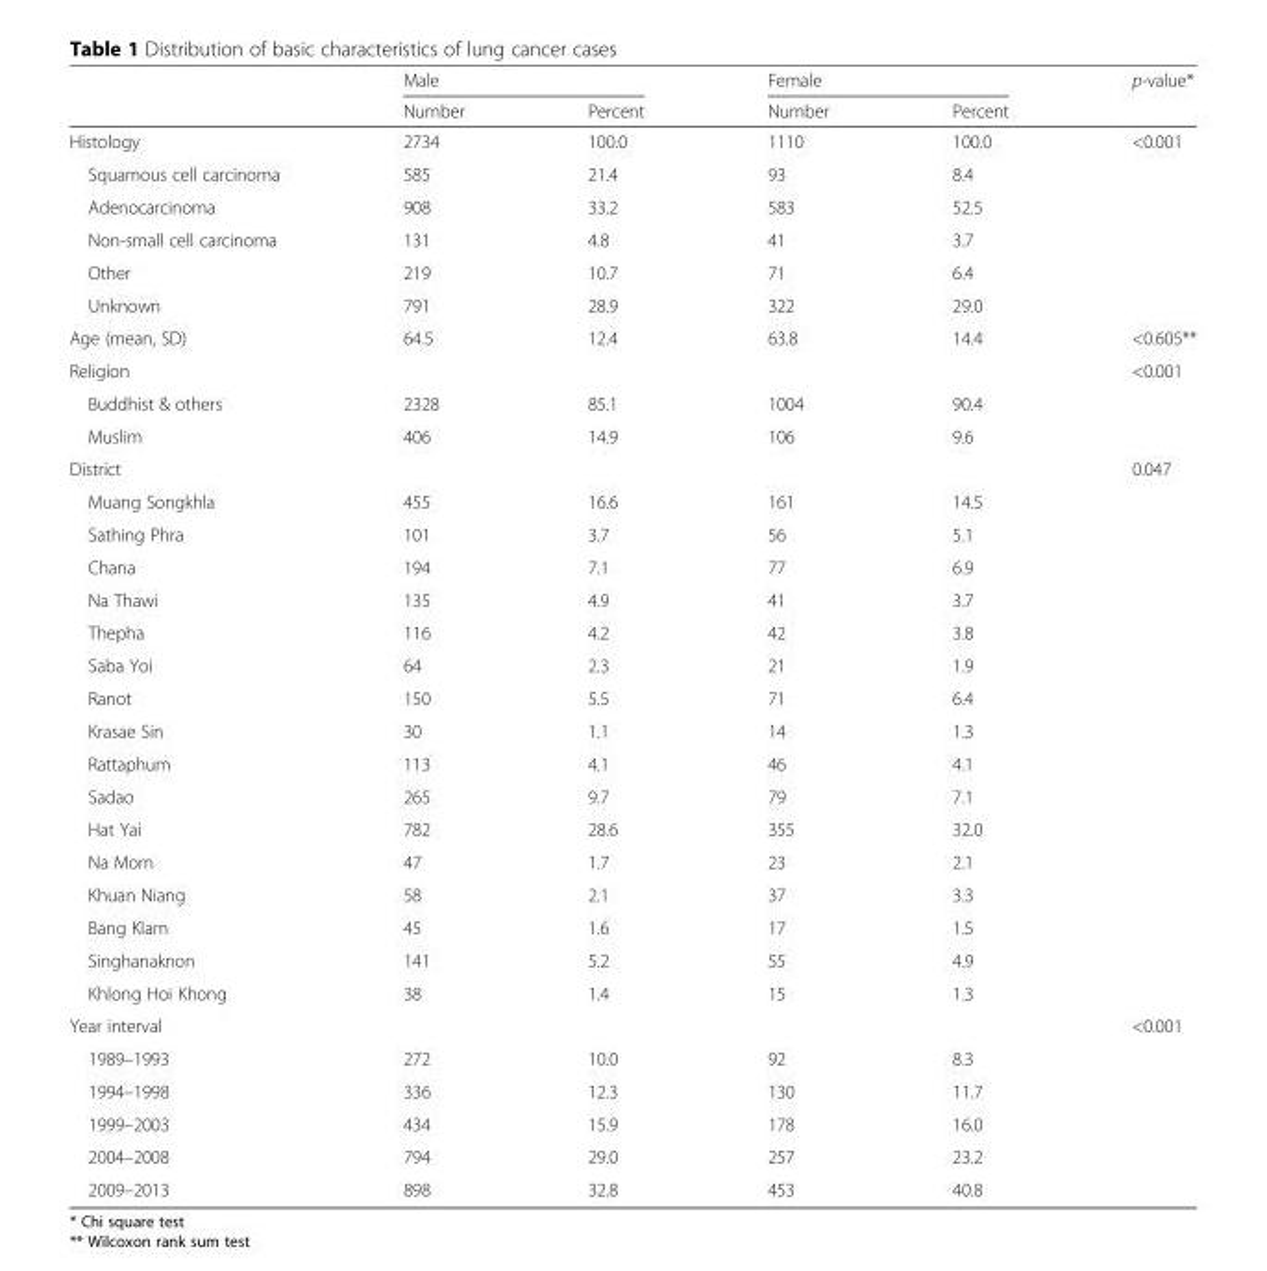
<table><thead><tr><td rowspan="2"></td><td colspan="2">Male</td><td colspan="2">Female</td><td rowspan="2">p-value*</td></tr><tr><td>Number</td><td>Percent</td><td>Number</td><td>Percent</td></tr></thead><tbody><tr><td>Histology</td><td>2734</td><td>100.0</td><td>1110</td><td>100.0</td><td>&lt;0.001</td></tr><tr><td>Squamous cell carcinoma</td><td>585</td><td>21.4</td><td>93</td><td>8.4</td><td></td></tr><tr><td>Adenocarcinoma</td><td>908</td><td>33.2</td><td>583</td><td>52.5</td><td></td></tr><tr><td>Non-small cell carcinoma</td><td>131</td><td>4.8</td><td>41</td><td>3.7</td><td></td></tr><tr><td>Other</td><td>219</td><td>10.7</td><td>71</td><td>6.4</td><td></td></tr><tr><td>Unknown</td><td>791</td><td>28.9</td><td>322</td><td>29.0</td><td></td></tr><tr><td>Age (mean, SD)</td><td>64.5</td><td>12.4</td><td>63.8</td><td>14.4</td><td>&lt;0.605**</td></tr><tr><td>Religion</td><td></td><td></td><td></td><td></td><td>&lt;0.001</td></tr><tr><td>Buddhist &amp; others</td><td>2328</td><td>85.1</td><td>1004</td><td>90.4</td><td></td></tr><tr><td>Muslim</td><td>406</td><td>14.9</td><td>106</td><td>9.6</td><td></td></tr><tr><td>District</td><td></td><td></td><td></td><td></td><td>0.047</td></tr><tr><td>Muang Songkhla</td><td>455</td><td>16.6</td><td>161</td><td>14.5</td><td></td></tr><tr><td>Sathing Phra</td><td>101</td><td>3.7</td><td>56</td><td>5.1</td><td></td></tr><tr><td>Chana</td><td>194</td><td>7.1</td><td>77</td><td>6.9</td><td></td></tr><tr><td>Na Thawi</td><td>135</td><td>4.9</td><td>41</td><td>3.7</td><td></td></tr><tr><td>Thepha</td><td>116</td><td>4.2</td><td>42</td><td>3.8</td><td></td></tr><tr><td>Saba Yoi</td><td>64</td><td>2.3</td><td>21</td><td>1.9</td><td></td></tr><tr><td>Ranot</td><td>150</td><td>5.5</td><td>71</td><td>6.4</td><td></td></tr><tr><td>Krasae Sin</td><td>30</td><td>1.1</td><td>14</td><td>1.3</td><td></td></tr><tr><td>Rattaphum</td><td>113</td><td>4.1</td><td>46</td><td>4.1</td><td></td></tr><tr><td>Sadao</td><td>265</td><td>9.7</td><td>79</td><td>7.1</td><td></td></tr><tr><td>Hat Yai</td><td>782</td><td>28.6</td><td>355</td><td>32.0</td><td></td></tr><tr><td>Na Mom</td><td>47</td><td>1.7</td><td>23</td><td>2.1</td><td></td></tr><tr><td>Khuan Niang</td><td>58</td><td>2.1</td><td>37</td><td>3.3</td><td></td></tr><tr><td>Bang Klam</td><td>45</td><td>1.6</td><td>17</td><td>1.5</td><td></td></tr><tr><td>Singhanaknon</td><td>141</td><td>5.2</td><td>55</td><td>4.9</td><td></td></tr><tr><td>Khlong Hoi Khong</td><td>38</td><td>1.4</td><td>15</td><td>1.3</td><td></td></tr><tr><td>Year interval</td><td></td><td></td><td></td><td></td><td>&lt;0.001</td></tr><tr><td>1989–1993</td><td>272</td><td>10.0</td><td>92</td><td>8.3</td><td></td></tr><tr><td>1994–1998</td><td>336</td><td>12.3</td><td>130</td><td>11.7</td><td></td></tr><tr><td>1999–2003</td><td>434</td><td>15.9</td><td>178</td><td>16.0</td><td></td></tr><tr><td>2004–2008</td><td>794</td><td>29.0</td><td>257</td><td>23.2</td><td></td></tr><tr><td>2009–2013</td><td>898</td><td>32.8</td><td>453</td><td>40.8</td><td></td></tr></tbody></table>